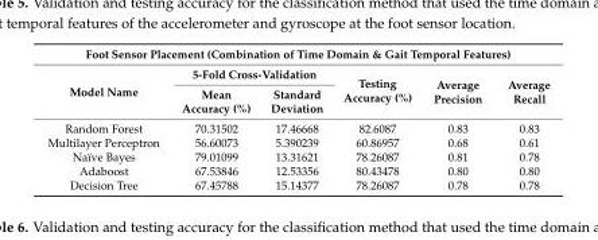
<table><thead><tr><td colspan="6">Foot Sensor Placement (Combination of Time Domain &amp; Gait Temporal Features)</td></tr><tr><td rowspan="2">Model Name</td><td colspan="2">5-Fold Cross-Validation</td><td rowspan="2">Testing Accuracy (%)</td><td rowspan="2">Average Precision</td><td rowspan="2">Average Recall</td></tr><tr><td>Mean Accuracy (%)</td><td>Standard Deviation</td></tr></thead><tbody><tr><td>Random Forest</td><td>70.31502</td><td>17.46668</td><td>82.6087</td><td>0.83</td><td>0.83</td></tr><tr><td>Multilayer Perceptron</td><td>56.60073</td><td>5.390239</td><td>60.86957</td><td>0.68</td><td>0.61</td></tr><tr><td>Naïve Bayes</td><td>79.01099</td><td>13.31621</td><td>78.26087</td><td>0.81</td><td>0.78</td></tr><tr><td>Adaboost</td><td>67.53846</td><td>12.53356</td><td>80.43478</td><td>0.80</td><td>0.80</td></tr><tr><td>Decision Tree</td><td>67.45788</td><td>15.14377</td><td>78.26087</td><td>0.78</td><td>0.78</td></tr></tbody></table>